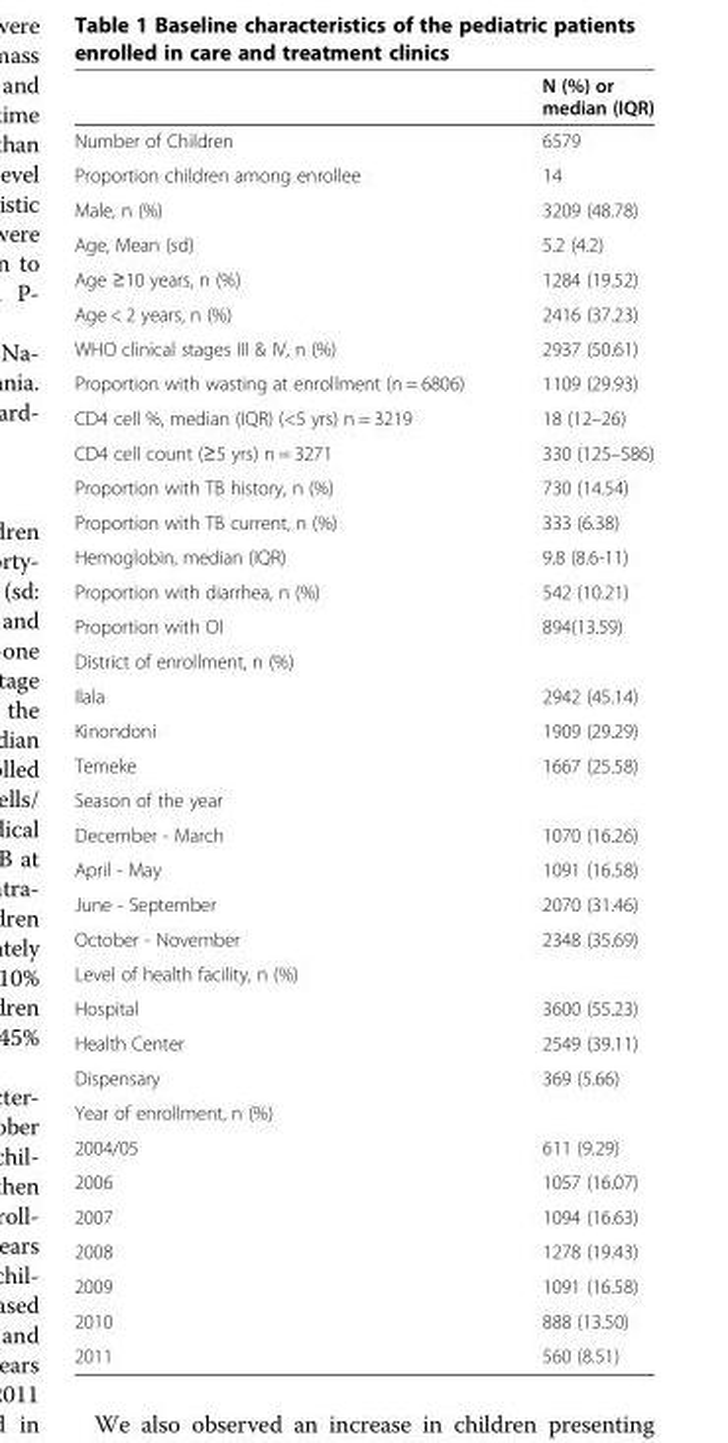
<table><thead><tr><td></td><td>N (%) or median (IQR)</td></tr></thead><tbody><tr><td>Number of Children</td><td>6579</td></tr><tr><td>Proportion children among enrollee</td><td>14</td></tr><tr><td>Male, n (%)</td><td>3209 (48.78)</td></tr><tr><td>Age, Mean (sd)</td><td>5.2 (4.2)</td></tr><tr><td>Age ≥10 years, n (%)</td><td>1284 (19.52)</td></tr><tr><td>Age &lt; 2 years, n (%)</td><td>2416 (37.23)</td></tr><tr><td>WHO clinical stages III &amp; IV, n (%)</td><td>2937 (50.61)</td></tr><tr><td>Proportion with wasting at enrollment (n = 6806)</td><td>1109 (29.93)</td></tr><tr><td>CD4 cell %, median (IQR) (&lt;5 yrs) n = 3219</td><td>18 (12–26)</td></tr><tr><td>CD4 cell count (≥5 yrs) n = 3271</td><td>330 (125–586)</td></tr><tr><td>Proportion with TB history, n (%)</td><td>730 (14.54)</td></tr><tr><td>Proportion with TB current, n (%)</td><td>333 (6.38)</td></tr><tr><td>Hemoglobin, median (IQR)</td><td>9.8 (8.6-11)</td></tr><tr><td>Proportion with diarrhea, n (%)</td><td>542 (10.21)</td></tr><tr><td>Proportion with OI</td><td>894(13.59)</td></tr><tr><td colspan="2">District of enrollment, n (%)</td></tr><tr><td>Ilala</td><td>2942 (45.14)</td></tr><tr><td>Kinondoni</td><td>1909 (29.29)</td></tr><tr><td>Temeke</td><td>1667 (25.58)</td></tr><tr><td colspan="2">Season of the year</td></tr><tr><td>December - March</td><td>1070 (16.26)</td></tr><tr><td>April - May</td><td>1091 (16.58)</td></tr><tr><td>June - September</td><td>2070 (31.46)</td></tr><tr><td>October - November</td><td>2348 (35.69)</td></tr><tr><td colspan="2">Level of health facility, n (%)</td></tr><tr><td>Hospital</td><td>3600 (55.23)</td></tr><tr><td>Health Center</td><td>2549 (39.11)</td></tr><tr><td>Dispensary</td><td>369 (5.66)</td></tr><tr><td colspan="2">Year of enrollment, n (%)</td></tr><tr><td>2004/05</td><td>611 (9.29)</td></tr><tr><td>2006</td><td>1057 (16.07)</td></tr><tr><td>2007</td><td>1094 (16.63)</td></tr><tr><td>2008</td><td>1278 (19.43)</td></tr><tr><td>2009</td><td>1091 (16.58)</td></tr><tr><td>2010</td><td>888 (13.50)</td></tr><tr><td>2011</td><td>560 (8.51)</td></tr></tbody></table>